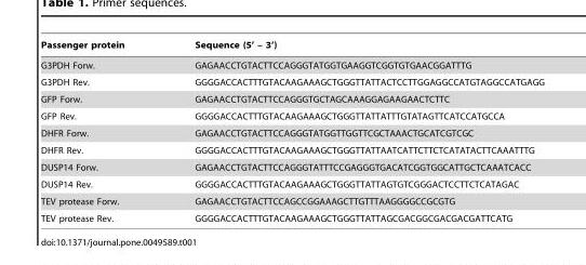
<table><thead><tr><td>Passenger protein</td><td>Sequence (5’ – 3’)</td></tr></thead><tbody><tr><td>G3PDH Forw.</td><td>GAGAACCTGTACTTCCAGGGTATGGTGAAGGTCGGTGTGAACGGATTTG</td></tr><tr><td>G3PDH Rev.</td><td>GGGGACCACTTTGTACAAGAAAGCTGGGTTATTACTCCTTGGAGGCCATGTAGGCCATGAGG</td></tr><tr><td>GFP Forw.</td><td>GAGAACCTGTACTTCCAGGGTGCTAGCAAAGGAGAAGAACTCTTC</td></tr><tr><td>GFP Rev.</td><td>GGGGACCACTTTGTACAAGAAAGCTGGGTTATTATTTGTATAGTTCATCCATGCCA</td></tr><tr><td>DHFR Forw.</td><td>GAGAACCTGTACTTCCAGGGTATGGTTGGTTCGCTAAACTGCATCGTCGC</td></tr><tr><td>DHFR Rev.</td><td>GGGGACCACTTTGTACAAGAAAGCTGGGTTATTAATCATTCTTCTCATATACTTCAAATTTG</td></tr><tr><td>DUSP14 Forw.</td><td>GAGAACCTGTACTTCCAGGGTATTTCCGAGGGTGACATCGGTGGCATTGCTCAAATCACC</td></tr><tr><td>DUSP14 Rev.</td><td>GGGGACCACTTTGTACAAGAAAGCTGGGTTATTAGTGTCGGGACTCCTTCTCATAGAC</td></tr><tr><td>TEV protease Forw.</td><td>GAGAACCTGTACTTCCAGCCGGAAAGCTTGTTTAAGGGGCCGCGTG</td></tr><tr><td>TEV protease Rev.</td><td>GGGGACCACTTTGTACAAGAAAGCTGGGTTATTAGCGACGGCGACGACGATTCATG</td></tr></tbody></table>